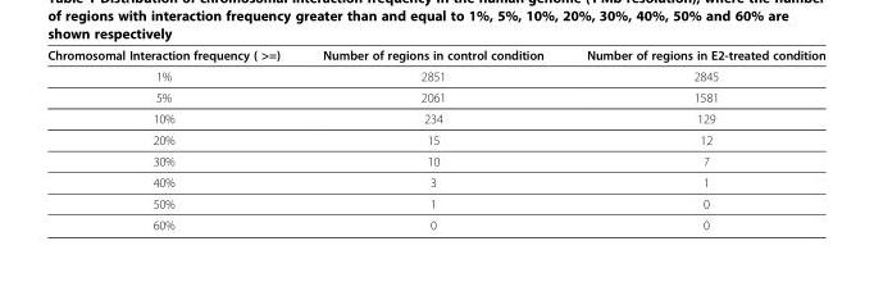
<table><thead><tr><td>Chromosomal Interaction frequency ( &gt;=)</td><td>Number of regions in control condition</td><td>Number of regions in E2-treated condition</td></tr></thead><tbody><tr><td>1%</td><td>2851</td><td>2845</td></tr><tr><td>5%</td><td>2061</td><td>1581</td></tr><tr><td>10%</td><td>234</td><td>129</td></tr><tr><td>20%</td><td>15</td><td>12</td></tr><tr><td>30%</td><td>10</td><td>7</td></tr><tr><td>40%</td><td>3</td><td>1</td></tr><tr><td>50%</td><td>1</td><td>0</td></tr><tr><td>60%</td><td>0</td><td>0</td></tr></tbody></table>